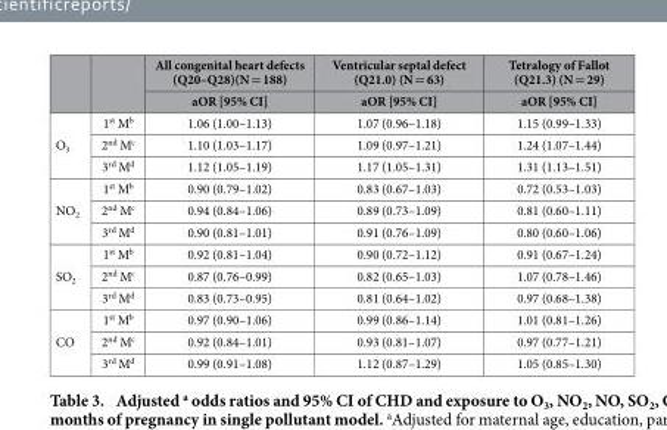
<table><thead><tr><td rowspan="2"></td><td rowspan="2"></td><td rowspan="2">All congenital heart defects (Q20–Q28)(N = 188) aOR [95% CI]</td><td rowspan="2">Ventricular septal defect (Q21.0) (N = 63) aOR [95% CI]</td><td rowspan="2">Tetralogy of Fallot (Q21.3) (N = 29) aOR [95% CI]</td></tr><tr></tr></thead><tbody><tr><td rowspan="3">O<sub>3</sub></td><td>1<sup>st</sup> M<sup>b</sup></td><td>1.06 (1.00–1.13)</td><td>1.07 (0.96–1.18)</td><td>1.15 (0.99–1.33)</td></tr><tr><td>2<sup>nd</sup> M<sup>c</sup></td><td>1.10 (1.03–1.17)</td><td>1.09 (0.97–1.21)</td><td>1.24 (1.07–1.44)</td></tr><tr><td>3<sup>rd</sup> M<sup>d</sup></td><td>1.12 (1.05–1.19)</td><td>1.17 (1.05–1.31)</td><td>1.31 (1.13–1.51)</td></tr><tr><td rowspan="3">NO<sub>2</sub></td><td>1<sup>st</sup> M<sup>b</sup></td><td>0.90 (0.79–1.02)</td><td>0.83 (0.67–1.03)</td><td>0.72 (0.53–1.03)</td></tr><tr><td>2<sup>nd</sup> M<sup>c</sup></td><td>0.94 (0.84–1.06)</td><td>0.89 (0.73–1.09)</td><td>0.81 (0.60–1.11)</td></tr><tr><td>3<sup>rd</sup> M<sup>d</sup></td><td>0.90 (0.81–1.01)</td><td>0.91 (0.76–1.09)</td><td>0.80 (0.60–1.06)</td></tr><tr><td rowspan="3">SO<sub>2</sub></td><td>1<sup>st</sup> M<sup>b</sup></td><td>0.92 (0.81–1.04)</td><td>0.90 (0.72–1.12)</td><td>0.91 (0.67–1.24)</td></tr><tr><td>2<sup>nd</sup> M<sup>c</sup></td><td>0.87 (0.76–0.99)</td><td>0.82 (0.65–1.03)</td><td>1.07 (0.78–1.46)</td></tr><tr><td>3<sup>rd</sup> M<sup>d</sup></td><td>0.83 (0.73–0.95)</td><td>0.81 (0.64–1.02)</td><td>0.97 (0.68–1.38)</td></tr><tr><td rowspan="3">CO</td><td>1<sup>st</sup> M<sup>b</sup></td><td>0.97 (0.90–1.06)</td><td>0.99 (0.86–1.14)</td><td>1.01 (0.81–1.26)</td></tr><tr><td>2<sup>nd</sup> M<sup>c</sup></td><td>0.92 (0.84–1.01)</td><td>0.93 (0.81–1.07)</td><td>0.97 (0.77–1.21)</td></tr><tr><td>3<sup>rd</sup> M<sup>d</sup></td><td>0.99 (0.91–1.08)</td><td>1.12 (0.87–1.29)</td><td>1.05 (0.85–1.30)</td></tr></tbody></table>